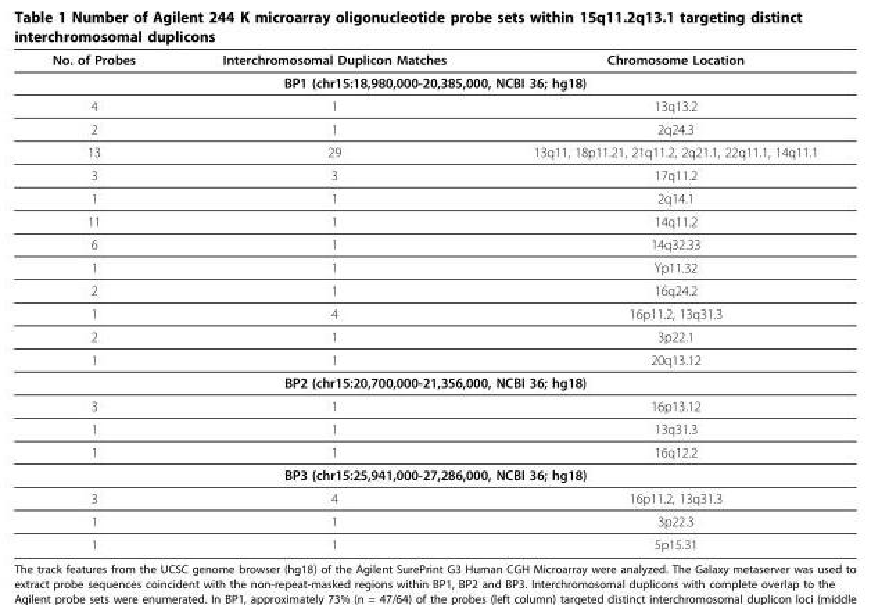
<table><thead><tr><td>No. of Probes</td><td>Interchromosomal Duplicon Matches</td><td>Chromosome Location</td></tr></thead><tbody><tr><td colspan="3">BP1 (chr15:18,980,000-20,385,000, NCBI 36; hg18)</td></tr><tr><td>4</td><td>1</td><td>13q13.2</td></tr><tr><td>2</td><td>1</td><td>2q24.3</td></tr><tr><td>13</td><td>29</td><td>13q11, 18p11.21, 21q11.2, 2q21.1, 22q11.1, 14q11.1</td></tr><tr><td>3</td><td>3</td><td>17q11.2</td></tr><tr><td>1</td><td>1</td><td>2q14.1</td></tr><tr><td>11</td><td>1</td><td>14q11.2</td></tr><tr><td>6</td><td>1</td><td>14q32.33</td></tr><tr><td>1</td><td>1</td><td>Yp11.32</td></tr><tr><td>2</td><td>1</td><td>16q24.2</td></tr><tr><td>1</td><td>4</td><td>16p11.2, 13q31.3</td></tr><tr><td>2</td><td>1</td><td>3p22.1</td></tr><tr><td>1</td><td>1</td><td>20q13.12</td></tr><tr><td colspan="3">BP2 (chr15:20,700,000-21,356,000, NCBI 36; hg18)</td></tr><tr><td>3</td><td>1</td><td>16p13.12</td></tr><tr><td>1</td><td>1</td><td>13q31.3</td></tr><tr><td>1</td><td>1</td><td>16q12.2</td></tr><tr><td colspan="3">BP3 (chr15:25,941,000-27,286,000, NCBI 36; hg18)</td></tr><tr><td>3</td><td>4</td><td>16p11.2, 13q31.3</td></tr><tr><td>1</td><td>1</td><td>3p22.3</td></tr><tr><td>1</td><td>1</td><td>5p15.31</td></tr></tbody></table>